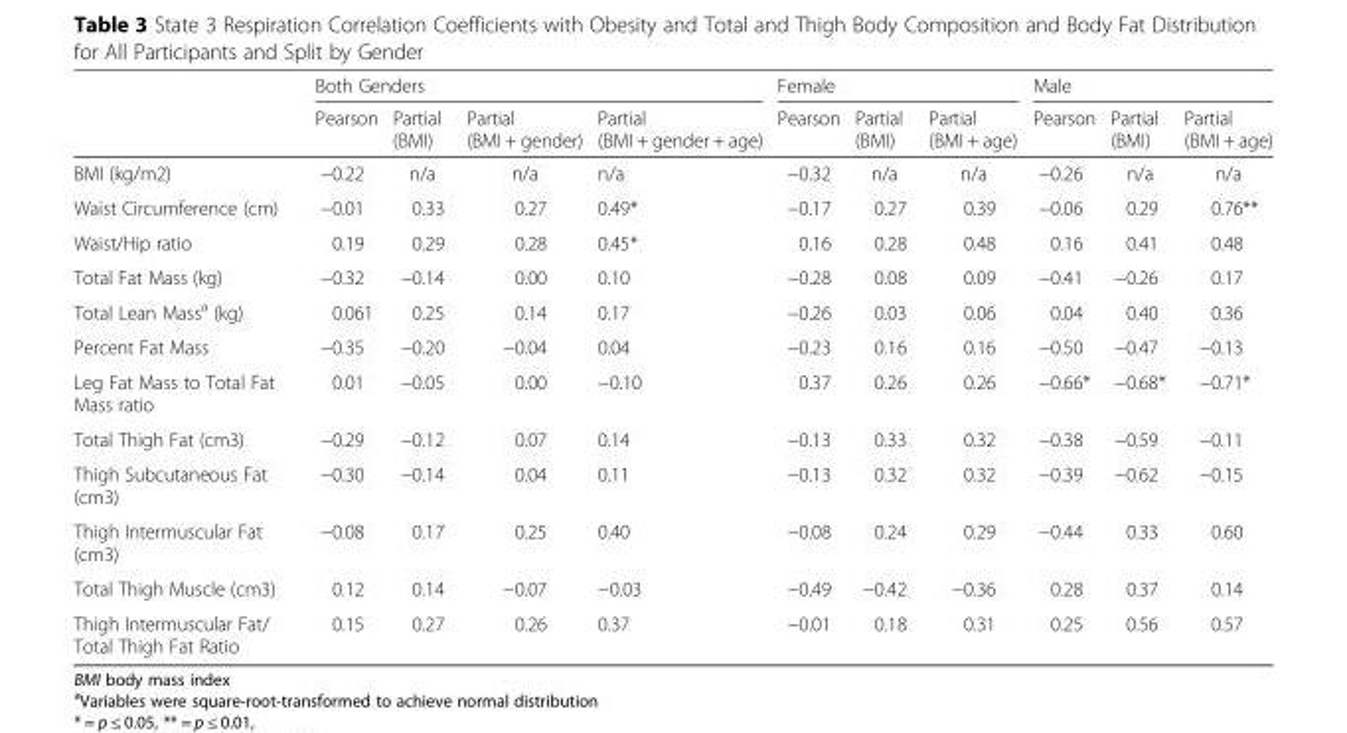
<table><thead><tr><td rowspan="2"></td><td colspan="4">Both Genders</td><td colspan="3">Female</td><td colspan="3">Male</td></tr><tr><td>Pearson</td><td>Partial (BMI)</td><td>Partial (BMI + gender)</td><td>Partial (BMI + gender + age)</td><td>Pearson</td><td>Partial (BMI)</td><td>Partial (BMI + age)</td><td>Pearson</td><td>Partial (BMI)</td><td>Partial (BMI + age)</td></tr></thead><tbody><tr><td>BMI (kg/m2)</td><td>−0.22</td><td>n/a</td><td>n/a</td><td>n/a</td><td>−0.32</td><td>n/a</td><td>n/a</td><td>−0.26</td><td>n/a</td><td>n/a</td></tr><tr><td>Waist Circumference (cm)</td><td>−0.01</td><td>0.33</td><td>0.27</td><td>0.49*</td><td>−0.17</td><td>0.27</td><td>0.39</td><td>−0.06</td><td>0.29</td><td>0.76**</td></tr><tr><td>Waist/Hip ratio</td><td>0.19</td><td>0.29</td><td>0.28</td><td>0.45*</td><td>0.16</td><td>0.28</td><td>0.48</td><td>0.16</td><td>0.41</td><td>0.48</td></tr><tr><td>Total Fat Mass (kg)</td><td>−0.32</td><td>−0.14</td><td>0.00</td><td>0.10</td><td>−0.28</td><td>0.08</td><td>0.09</td><td>−0.41</td><td>−0.26</td><td>0.17</td></tr><tr><td>Total Lean Mass<sup>a</sup> (kg)</td><td>0.061</td><td>0.25</td><td>0.14</td><td>0.17</td><td>−0.26</td><td>0.03</td><td>0.06</td><td>0.04</td><td>0.40</td><td>0.36</td></tr><tr><td>Percent Fat Mass</td><td>−0.35</td><td>−0.20</td><td>−0.04</td><td>0.04</td><td>−0.23</td><td>0.16</td><td>0.16</td><td>−0.50</td><td>−0.47</td><td>−0.13</td></tr><tr><td>Leg Fat Mass to Total Fat Mass ratio</td><td>0.01</td><td>−0.05</td><td>0.00</td><td>−0.10</td><td>0.37</td><td>0.26</td><td>0.26</td><td>−0.66*</td><td>−0.68*</td><td>−0.71*</td></tr><tr><td>Total Thigh Fat (cm3)</td><td>−0.29</td><td>−0.12</td><td>0.07</td><td>0.14</td><td>−0.13</td><td>0.33</td><td>0.32</td><td>−0.38</td><td>−0.59</td><td>−0.11</td></tr><tr><td>Thigh Subcutaneous Fat (cm3)</td><td>−0.30</td><td>−0.14</td><td>0.04</td><td>0.11</td><td>−0.13</td><td>0.32</td><td>0.32</td><td>−0.39</td><td>−0.62</td><td>−0.15</td></tr><tr><td>Thigh Intermuscular Fat (cm3)</td><td>−0.08</td><td>0.17</td><td>0.25</td><td>0.40</td><td>−0.08</td><td>0.24</td><td>0.29</td><td>−0.44</td><td>0.33</td><td>0.60</td></tr><tr><td>Total Thigh Muscle (cm3)</td><td>0.12</td><td>0.14</td><td>−0.07</td><td>−0.03</td><td>−0.49</td><td>−0.42</td><td>−0.36</td><td>0.28</td><td>0.37</td><td>0.14</td></tr><tr><td>Thigh Intermuscular Fat/ Total Thigh Fat Ratio</td><td>0.15</td><td>0.27</td><td>0.26</td><td>0.37</td><td>−0.01</td><td>0.18</td><td>0.31</td><td>0.25</td><td>0.56</td><td>0.57</td></tr></tbody></table>